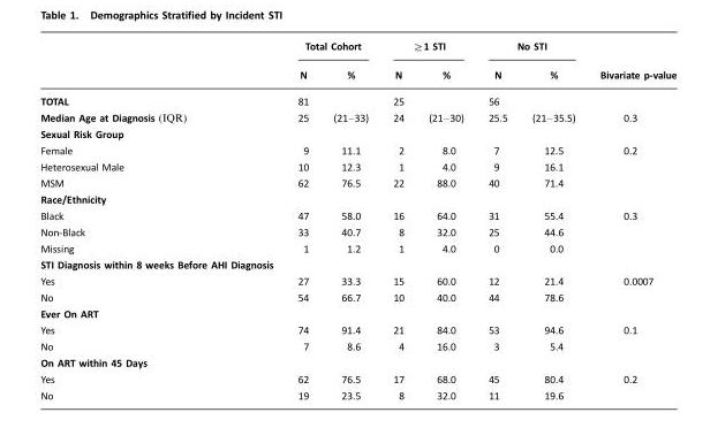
<table><thead><tr><td rowspan="2"></td><td colspan="2">Total Cohort</td><td colspan="2">≥1 STI</td><td colspan="2">No STI</td><td rowspan="2">Bivariate p-value</td></tr><tr><td>N</td><td>%</td><td>N</td><td>%</td><td>N</td><td>%</td></tr></thead><tbody><tr><td>TOTAL</td><td>81</td><td></td><td>25</td><td></td><td>56</td><td></td><td></td></tr><tr><td>Median Age at Diagnosis (IQR)</td><td>25</td><td>(21–33)</td><td>24</td><td>(21–30)</td><td>25.5</td><td>(21–35.5)</td><td>0.3</td></tr><tr><td colspan="8">Sexual Risk Group</td></tr><tr><td>Female</td><td>9</td><td>11.1</td><td>2</td><td>8.0</td><td>7</td><td>12.5</td><td>0.2</td></tr><tr><td>Heterosexual Male</td><td>10</td><td>12.3</td><td>1</td><td>4.0</td><td>9</td><td>16.1</td><td></td></tr><tr><td>MSM</td><td>62</td><td>76.5</td><td>22</td><td>88.0</td><td>40</td><td>71.4</td><td></td></tr><tr><td colspan="8">Race/Ethnicity</td></tr><tr><td>Black</td><td>47</td><td>58.0</td><td>16</td><td>64.0</td><td>31</td><td>55.4</td><td>0.3</td></tr><tr><td>Non-Black</td><td>33</td><td>40.7</td><td>8</td><td>32.0</td><td>25</td><td>44.6</td><td></td></tr><tr><td>Missing</td><td>1</td><td>1.2</td><td>1</td><td>4.0</td><td>0</td><td>0.0</td><td></td></tr><tr><td colspan="8">STI Diagnosis within 8 weeks Before AHI Diagnosis</td></tr><tr><td>Yes</td><td>27</td><td>33.3</td><td>15</td><td>60.0</td><td>12</td><td>21.4</td><td>0.0007</td></tr><tr><td>No</td><td>54</td><td>66.7</td><td>10</td><td>40.0</td><td>44</td><td>78.6</td><td></td></tr><tr><td colspan="8">Ever On ART</td></tr><tr><td>Yes</td><td>74</td><td>91.4</td><td>21</td><td>84.0</td><td>53</td><td>94.6</td><td>0.1</td></tr><tr><td>No</td><td>7</td><td>8.6</td><td>4</td><td>16.0</td><td>3</td><td>5.4</td><td></td></tr><tr><td colspan="8">On ART within 45 Days</td></tr><tr><td>Yes</td><td>62</td><td>76.5</td><td>17</td><td>68.0</td><td>45</td><td>80.4</td><td>0.2</td></tr><tr><td>No</td><td>19</td><td>23.5</td><td>8</td><td>32.0</td><td>11</td><td>19.6</td><td></td></tr></tbody></table>